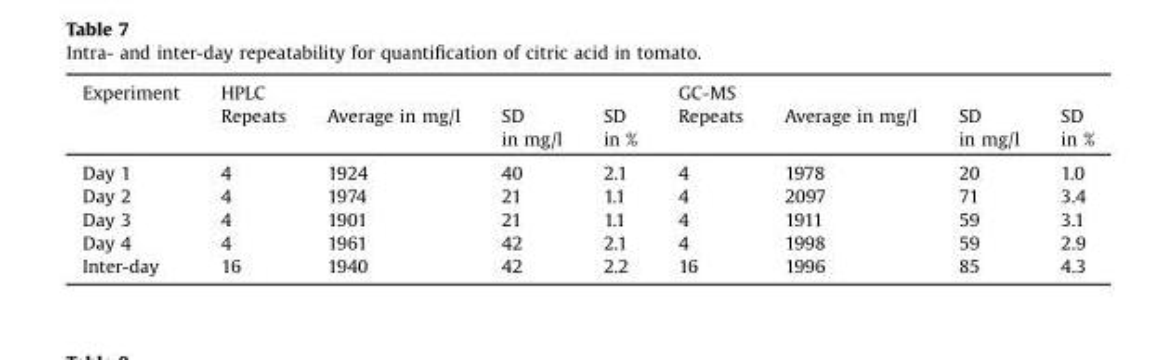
<table><thead><tr><td rowspan="2">Experiment</td><td rowspan="2">HPLC Repeats</td><td rowspan="2">Average in mg/l</td><td rowspan="2">SD in mg/l</td><td rowspan="2">SD in %</td><td rowspan="2">GC-MS Repeats</td><td rowspan="2">Average in mg/l</td><td rowspan="2">SD in mg/l</td><td rowspan="2">SD in %</td></tr><tr></tr></thead><tbody><tr><td>Day 1</td><td>4</td><td>1924</td><td>40</td><td>2.1</td><td>4</td><td>1978</td><td>20</td><td>1.0</td></tr><tr><td>Day 2</td><td>4</td><td>1974</td><td>21</td><td>1.1</td><td>4</td><td>2097</td><td>71</td><td>3.4</td></tr><tr><td>Day 3</td><td>4</td><td>1901</td><td>21</td><td>1.1</td><td>4</td><td>1911</td><td>59</td><td>3.1</td></tr><tr><td>Day 4</td><td>4</td><td>1961</td><td>42</td><td>2.1</td><td>4</td><td>1998</td><td>59</td><td>2.9</td></tr><tr><td>Inter-day</td><td>16</td><td>1940</td><td>42</td><td>2.2</td><td>16</td><td>1996</td><td>85</td><td>4.3</td></tr></tbody></table>